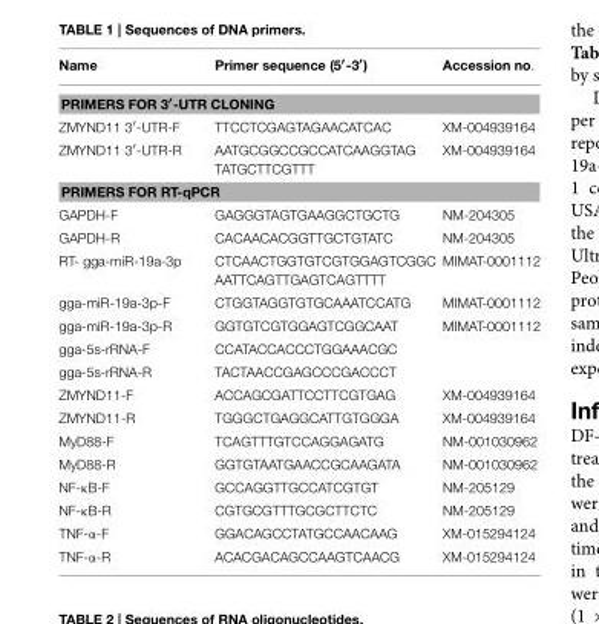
<table><thead><tr><td>Name</td><td>Primer sequence (5′-3′)</td><td>Accession no.</td></tr></thead><tbody><tr><td colspan="3">PRIMERS FOR 3′-UTR CLONING</td></tr><tr><td>ZMYND11 3′-UTR-F</td><td>TTCCTCGAGTAGAACATCAC</td><td>XM-004939164</td></tr><tr><td>ZMYND11 3′-UTR-R</td><td>AATGCGGCCGCCATCAAGGTAG TATGCTTCGTTT</td><td>XM-004939164</td></tr><tr><td colspan="3">PRIMERS FOR RT-qPCR</td></tr><tr><td>GAPDH-F</td><td>GAGGGTAGTGAAGGCTGCTG</td><td>NM-204305</td></tr><tr><td>GAPDH-R</td><td>CACAACACGGTTGCTGTATC</td><td>NM-204305</td></tr><tr><td>RT- gga-miR-19a-3p</td><td>CTCAACTGGTGTCGTGGAGTCGGC AATTCAGTTGAGTCAGTTTT</td><td>MIMAT-0001112</td></tr><tr><td>gga-miR-19a-3p-F</td><td>CTGGTAGGTGTGCAAATCCATG</td><td>MIMAT-0001112</td></tr><tr><td>gga-miR-19a-3p-R</td><td>GGTGTCGTGGAGTCGGCAAT</td><td>MIMAT-0001112</td></tr><tr><td>gga-5s-rRNA-F</td><td>CCATACCACCCTGGAAACGC</td><td></td></tr><tr><td>gga-5s-rRNA-R</td><td>TACTAACCGAGCCCGACCCT</td><td></td></tr><tr><td>ZMYND11-F</td><td>ACCAGCGATTCCTTCGTGAG</td><td>XM-004939164</td></tr><tr><td>ZMYND11-R</td><td>TGGGCTGAGGCATTGTGGGA</td><td>XM-004939164</td></tr><tr><td>MyD88-F</td><td>TCAGTTTGTCCAGGAGATG</td><td>NM-001030962</td></tr><tr><td>MyD88-R</td><td>GGTGTAATGAACCGCAAGATA</td><td>NM-001030962</td></tr><tr><td>NF-κB-F</td><td>GCCAGGTTGCCATCGTGT</td><td>NM-205129</td></tr><tr><td>NF-κB-R</td><td>CGTGCGTTTGCGCTTCTC</td><td>NM-205129</td></tr><tr><td>TNF-α-F</td><td>GGACAGCCTATGCCAACAAG</td><td>XM-015294124</td></tr><tr><td>TNF-α-R</td><td>ACACGACAGCCAAGTCAACG</td><td>XM-015294124</td></tr></tbody></table>